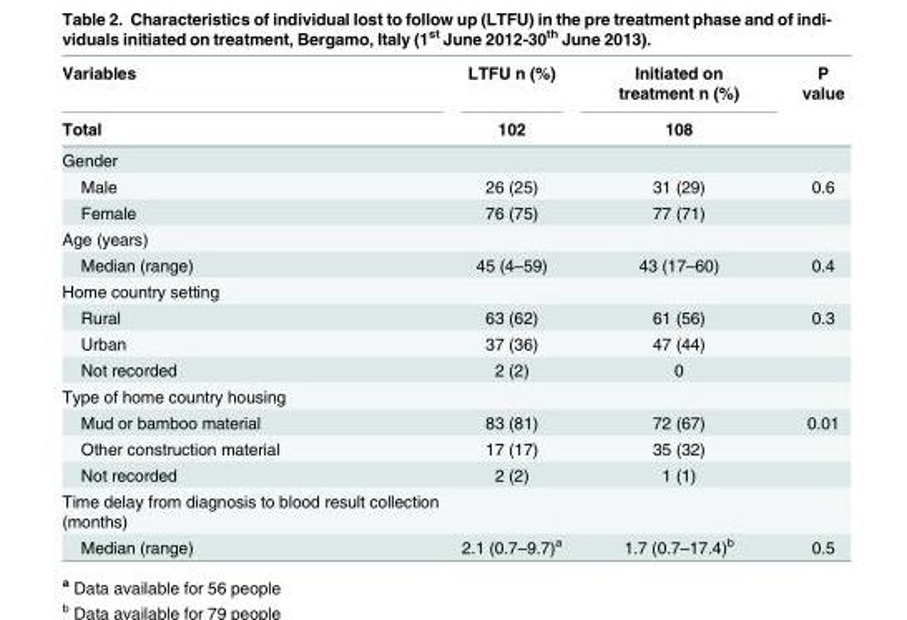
<table><thead><tr><td rowspan="2">Variables Total</td><td rowspan="2">LTFU n (%) 102</td><td rowspan="2">Initiated on treatment n (%) 108</td><td rowspan="2">P value</td></tr><tr></tr></thead><tbody><tr><td colspan="4">Gender</td></tr><tr><td>Male</td><td>26 (25)</td><td>31 (29)</td><td>0.6</td></tr><tr><td>Female</td><td>76 (75)</td><td>77 (71)</td><td></td></tr><tr><td colspan="4">Age (years)</td></tr><tr><td>Median (range)</td><td>45 (4–59)</td><td>43 (17–60)</td><td>0.4</td></tr><tr><td colspan="4">Home country setting</td></tr><tr><td>Rural</td><td>63 (62)</td><td>61 (56)</td><td>0.3</td></tr><tr><td>Urban</td><td>37 (36)</td><td>47 (44)</td><td></td></tr><tr><td>Not recorded</td><td>2 (2)</td><td>0</td><td></td></tr><tr><td colspan="4">Type of home country housing</td></tr><tr><td>Mud or bamboo material</td><td>83 (81)</td><td>72 (67)</td><td>0.01</td></tr><tr><td>Other construction material</td><td>17 (17)</td><td>35 (32)</td><td></td></tr><tr><td>Not recorded</td><td>2 (2)</td><td>1 (1)</td><td></td></tr><tr><td colspan="4">Time delay from diagnosis to blood result collection (months)</td></tr><tr><td>Median (range)</td><td>2.1 (0.7–9.7)<sup>a</sup></td><td>1.7 (0.7–17.4)<sup>b</sup></td><td>0.5</td></tr></tbody></table>